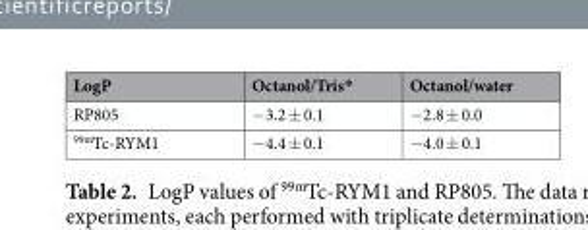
<table><thead><tr><td>LogP</td><td>Octanol/Tris*</td><td>Octanol/water</td></tr></thead><tbody><tr><td>RP805</td><td>−3.2 ± 0.1</td><td>−2.8 ± 0.0</td></tr><tr><td><sup>99m</sup>Tc-RYM1</td><td>−4.4 ± 0.1</td><td>−4.0 ± 0.1</td></tr></tbody></table>